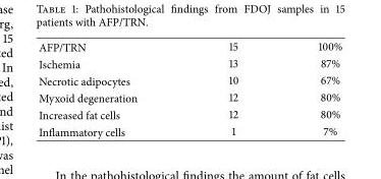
<table><tbody><tr><td>AFP/TRN</td><td>15</td><td>100%</td></tr><tr><td>Ischemia</td><td>13</td><td>87%</td></tr><tr><td>Necrotic adipocytes</td><td>10</td><td>67%</td></tr><tr><td>Myxoid degeneration</td><td>12</td><td>80%</td></tr><tr><td>Increased fat cells</td><td>12</td><td>80%</td></tr><tr><td>Inflammatory cells</td><td>1</td><td>7%</td></tr></tbody></table>